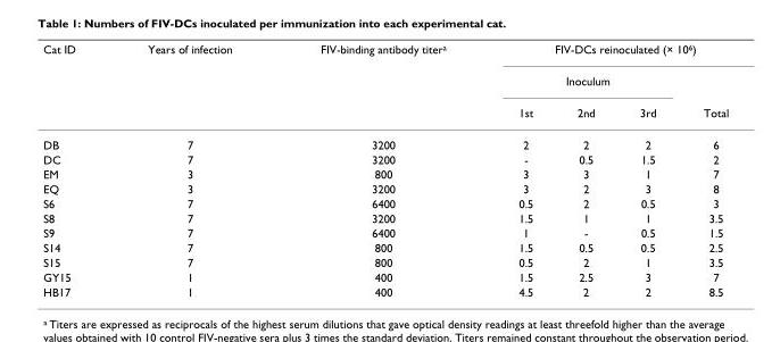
<table><thead><tr><td rowspan="3">Cat ID</td><td rowspan="3">Years of infection</td><td rowspan="3">FIV-binding antibody titer<sup>a</sup></td><td colspan="4">FIV-DCs reinoculated (× 10<sup>6</sup>)</td></tr><tr><td colspan="3">Inoculum</td><td rowspan="2">Total</td></tr><tr><td>1st</td><td>2nd</td><td>3rd</td></tr></thead><tbody><tr><td>DB</td><td>7</td><td>3200</td><td>2</td><td>2</td><td>2</td><td>6</td></tr><tr><td>DC</td><td>7</td><td>3200</td><td>-</td><td>0.5</td><td>1.5</td><td>2</td></tr><tr><td>EM</td><td>3</td><td>800</td><td>3</td><td>3</td><td>1</td><td>7</td></tr><tr><td>EQ</td><td>3</td><td>3200</td><td>3</td><td>2</td><td>3</td><td>8</td></tr><tr><td>S6</td><td>7</td><td>6400</td><td>0.5</td><td>2</td><td>0.5</td><td>3</td></tr><tr><td>S8</td><td>7</td><td>3200</td><td>1.5</td><td>1</td><td>1</td><td>3.5</td></tr><tr><td>S9</td><td>7</td><td>6400</td><td>1</td><td>-</td><td>0.5</td><td>1.5</td></tr><tr><td>S14</td><td>7</td><td>800</td><td>1.5</td><td>0.5</td><td>0.5</td><td>2.5</td></tr><tr><td>S15</td><td>7</td><td>800</td><td>0.5</td><td>2</td><td>1</td><td>3.5</td></tr><tr><td>GY15</td><td>1</td><td>400</td><td>1.5</td><td>2.5</td><td>3</td><td>7</td></tr><tr><td>HB17</td><td>1</td><td>400</td><td>4.5</td><td>2</td><td>2</td><td>8.5</td></tr></tbody></table>